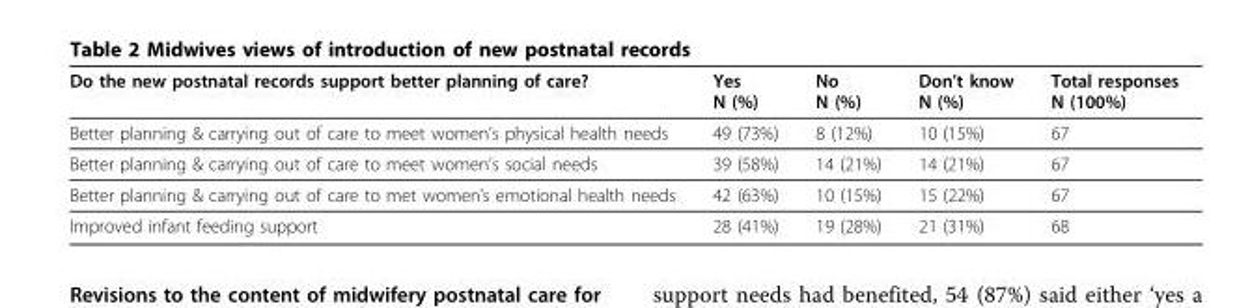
<table><thead><tr><td>Do the new postnatal records support better planning of care?</td><td>Yes N (%)</td><td>No N (%)</td><td>Don’t know N (%)</td><td>Total responses N (100%)</td></tr></thead><tbody><tr><td>Better planning &amp; carrying out of care to meet women’s physical health needs</td><td>49 (73%)</td><td>8 (12%)</td><td>10 (15%)</td><td>67</td></tr><tr><td>Better planning &amp; carrying out of care to meet women’s social needs</td><td>39 (58%)</td><td>14 (21%)</td><td>14 (21%)</td><td>67</td></tr><tr><td>Better planning &amp; carrying out of care to met women’s emotional health needs</td><td>42 (63%)</td><td>10 (15%)</td><td>15 (22%)</td><td>67</td></tr><tr><td>Improved infant feeding support</td><td>28 (41%)</td><td>19 (28%)</td><td>21 (31%)</td><td>68</td></tr></tbody></table>